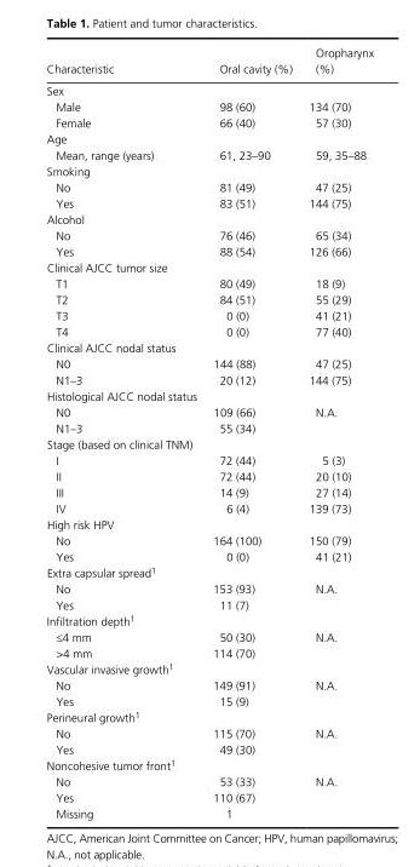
<table><thead><tr><td>Characteristic</td><td>Oral cavity (%)</td><td>Oropharynx (%)</td></tr></thead><tbody><tr><td colspan="3">Sex</td></tr><tr><td>Male</td><td>98 (60)</td><td>134 (70)</td></tr><tr><td>Female</td><td>66 (40)</td><td>57 (30)</td></tr><tr><td colspan="3">Age</td></tr><tr><td>Mean, range (years)</td><td>61, 23–90</td><td>59, 35–88</td></tr><tr><td colspan="3">Smoking</td></tr><tr><td>No</td><td>81 (49)</td><td>47 (25)</td></tr><tr><td>Yes</td><td>83 (51)</td><td>144 (75)</td></tr><tr><td colspan="3">Alcohol</td></tr><tr><td>No</td><td>76 (46)</td><td>65 (34)</td></tr><tr><td>Yes</td><td>88 (54)</td><td>126 (66)</td></tr><tr><td colspan="3">Clinical AJCC tumor size</td></tr><tr><td>T1</td><td>80 (49)</td><td>18 (9)</td></tr><tr><td>T2</td><td>84 (51)</td><td>55 (29)</td></tr><tr><td>T3</td><td>0 (0)</td><td>41 (21)</td></tr><tr><td>T4</td><td>0 (0)</td><td>77 (40)</td></tr><tr><td colspan="3">Clinical AJCC nodal status</td></tr><tr><td>N0</td><td>144 (88)</td><td>47 (25)</td></tr><tr><td>N1–3</td><td>20 (12)</td><td>144 (75)</td></tr><tr><td colspan="3">Histological AJCC nodal status</td></tr><tr><td>N0</td><td>109 (66)</td><td>N.A.</td></tr><tr><td>N1–3</td><td>55 (34)</td><td></td></tr><tr><td colspan="3">Stage (based on clinical TNM)</td></tr><tr><td>I</td><td>72 (44)</td><td>5 (3)</td></tr><tr><td>II</td><td>72 (44)</td><td>20 (10)</td></tr><tr><td>III</td><td>14 (9)</td><td>27 (14)</td></tr><tr><td>IV</td><td>6 (4)</td><td>139 (73)</td></tr><tr><td colspan="3">High risk HPV</td></tr><tr><td>No</td><td>164 (100)</td><td>150 (79)</td></tr><tr><td>Yes</td><td>0 (0)</td><td>41 (21)</td></tr><tr><td colspan="3">Extra capsular spread<sup>1</sup></td></tr><tr><td>No</td><td>153 (93)</td><td>N.A.</td></tr><tr><td>Yes</td><td>11 (7)</td><td></td></tr><tr><td colspan="3">Infiltration depth<sup>1</sup></td></tr><tr><td>≤4 mm</td><td>50 (30)</td><td>N.A.</td></tr><tr><td>&gt;4 mm</td><td>114 (70)</td><td></td></tr><tr><td colspan="3">Vascular invasive growth<sup>1</sup></td></tr><tr><td>No</td><td>149 (91)</td><td>N.A.</td></tr><tr><td>Yes</td><td>15 (9)</td><td></td></tr><tr><td colspan="3">Perineural growth<sup>1</sup></td></tr><tr><td>No</td><td>115 (70)</td><td>N.A.</td></tr><tr><td>Yes</td><td>49 (30)</td><td></td></tr><tr><td colspan="3">Noncohesive tumor front<sup>1</sup></td></tr><tr><td>No</td><td>53 (33)</td><td>N.A.</td></tr><tr><td>Yes</td><td>110 (67)</td><td></td></tr><tr><td>Missing</td><td>1</td><td></td></tr></tbody></table>